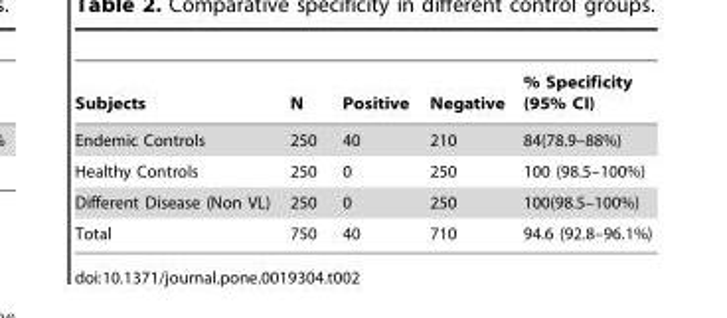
<table><thead><tr><td>Subjects</td><td>N</td><td>Positive</td><td>Negative</td><td>% Specificity (95% CI)</td></tr></thead><tbody><tr><td>Endemic Controls</td><td>250</td><td>40</td><td>210</td><td>84(78.9–88%)</td></tr><tr><td>Healthy Controls</td><td>250</td><td>0</td><td>250</td><td>100 (98.5–100%)</td></tr><tr><td>Different Disease (Non VL)</td><td>250</td><td>0</td><td>250</td><td>100(98.5–100%)</td></tr><tr><td>Total</td><td>750</td><td>40</td><td>710</td><td>94.6 (92.8–96.1%)</td></tr></tbody></table>